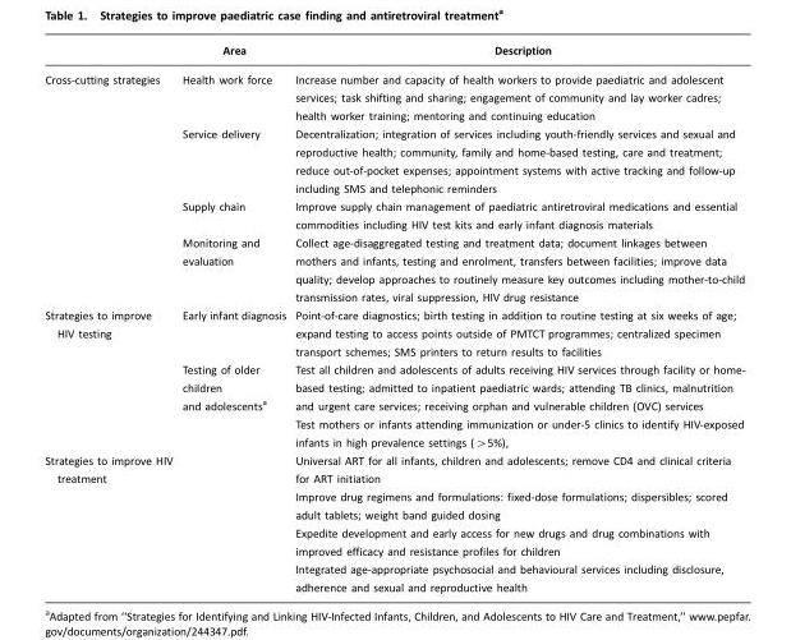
<table><thead><tr><td></td><td>Area</td><td>Description</td></tr></thead><tbody><tr><td rowspan="4">Cross-cutting strategies</td><td>Health work force</td><td>Increase number and capacity of health workers to provide paediatric and adolescent services; task shifting and sharing; engagement of community and lay worker cadres; health worker training; mentoring and continuing education</td></tr><tr><td>Service delivery</td><td>Decentralization; integration of services including youth-friendly services and sexual and reproductive health; community, family and home-based testing, care and treatment; reduce out-of-pocket expenses; appointment systems with active tracking and follow-up including SMS and telephonic reminders</td></tr><tr><td>Supply chain</td><td>Improve supply chain management of paediatric antiretroviral medications and essential commodities including HIV test kits and early infant diagnosis materials</td></tr><tr><td>Monitoring and evaluation</td><td>Collect age-disaggregated testing and treatment data; document linkages between mothers and infants, testing and enrolment, transfers between facilities; improve data quality; develop approaches to routinely measure key outcomes including mother-to-child transmission rates, viral suppression, HIV drug resistance</td></tr><tr><td rowspan="3">Strategies to improve HIV testing</td><td>Early infant diagnosis</td><td>Point-of-care diagnostics; birth testing in addition to routine testing at six weeks of age; expand testing to access points outside of PMTCT programmes; centralized specimen transport schemes; SMS printers to return results to facilities</td></tr><tr><td>Testing of older children and adolescentsa</td><td>Test all children and adolescents of adults receiving HIV services through facility or home- based testing; admitted to inpatient paediatric wards; attending TB clinics, malnutrition and urgent care services; receiving orphan and vulnerable children (OVC) services</td></tr><tr><td></td><td>Test mothers or infants attending immunization or under-5 clinics to identify HIV-exposed infants in high prevalence settings (&gt;5%),</td></tr><tr><td rowspan="4">Strategies to improve HIV treatment</td><td></td><td>Universal ART for all infants, children and adolescents; remove CD4 and clinical criteria for ART initiation</td></tr><tr><td></td><td>Improve drug regimens and formulations: fixed-dose formulations; dispersibles; scored adult tablets; weight band guided dosing</td></tr><tr><td></td><td>Expedite development and early access for new drugs and drug combinations with improved efficacy and resistance profiles for children</td></tr><tr><td></td><td>Integrated age-appropriate psychosocial and behavioural services including disclosure, adherence and sexual and reproductive health</td></tr></tbody></table>